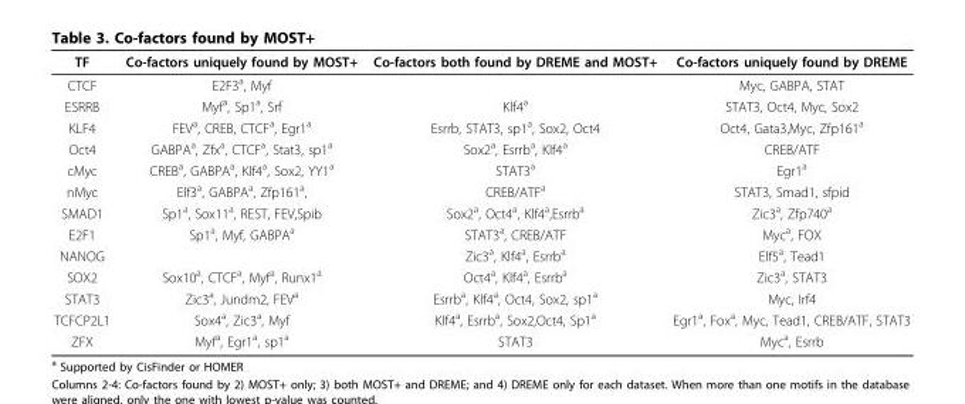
<table><thead><tr><td>TF</td><td>Co-factors uniquely found by MOST+</td><td>Co-factors both found by DREME and MOST+</td><td>Co-factors uniquely found by DREME</td></tr></thead><tbody><tr><td>CTCF</td><td>E2F3<sup>a</sup>, Myf</td><td></td><td>Myc, GABPA, STAT</td></tr><tr><td>ESRRB</td><td>Myf<sup>a</sup>, Sp1<sup>a</sup>, Srf</td><td>Klf4<sup>a</sup></td><td>STAT3, Oct4, Myc, Sox2</td></tr><tr><td>KLF4</td><td>FEV<sup>a</sup>, CREB, CTCF<sup>a</sup>, Egr1<sup>a</sup></td><td>Esrrb, STAT3, sp1<sup>a</sup>, Sox2, Oct4</td><td>Oct4, Gata3,Myc, Zfp161<sup>a</sup></td></tr><tr><td>Oct4</td><td>GABPA<sup>a</sup>, Zfx<sup>a</sup>, CTCF<sup>a</sup>, Stat3, sp1<sup>a</sup></td><td>Sox2<sup>a</sup>, Esrrb<sup>a</sup>, Klf4<sup>a</sup></td><td>CREB/ATF</td></tr><tr><td>cMyc</td><td>CREB<sup>a</sup>, GABPA<sup>a</sup>, Klf4<sup>a</sup>, Sox2, YY1<sup>a</sup></td><td>STAT3<sup>a</sup></td><td>Egr1<sup>a</sup></td></tr><tr><td>nMyc</td><td>Elf3<sup>a</sup>, GABPA<sup>a</sup>, Zfp161<sup>a</sup>,</td><td>CREB/ATF<sup>a</sup></td><td>STAT3, Smad1, sfpid</td></tr><tr><td>SMAD1</td><td>Sp1<sup>a</sup>, Sox11<sup>a</sup>, REST, FEV,Spib</td><td>Sox2<sup>a</sup>, Oct4<sup>a</sup>, Klf4<sup>a</sup>,Esrrb<sup>a</sup></td><td>Zic3<sup>a</sup>, Zfp740<sup>a</sup></td></tr><tr><td>E2F1</td><td>Sp1<sup>a</sup>, Myf, GABPA<sup>a</sup></td><td>STAT3<sup>a</sup>, CREB/ATF</td><td>Myc<sup>a</sup>, FOX</td></tr><tr><td>NANOG</td><td></td><td>Zic3<sup>a</sup>, Klf4<sup>a</sup>, Esrrb<sup>a</sup></td><td>Elf5<sup>a</sup>, Tead1</td></tr><tr><td>SOX2</td><td>Sox10<sup>a</sup>, CTCF<sup>a</sup>, Myf<sup>a</sup>, Runx1<sup>a</sup></td><td>Oct4<sup>a</sup>, Klf4<sup>a</sup>, Esrrb<sup>a</sup></td><td>Zic3<sup>a</sup>, STAT3</td></tr><tr><td>STAT3</td><td>Zic3<sup>a</sup>, Jundm2, FEV<sup>a</sup></td><td>Esrrb<sup>a</sup>, Klf4<sup>a</sup>, Oct4, Sox2, sp1<sup>a</sup></td><td>Myc, Irf4</td></tr><tr><td>TCFCP2L1</td><td>Sox4<sup>a</sup>, Zic3<sup>a</sup>, Myf</td><td>Klf4<sup>a</sup>, Esrrb<sup>a</sup>, Sox2,Oct4, Sp1<sup>a</sup></td><td>Egr1<sup>a</sup>, Fox<sup>a</sup>, Myc, Tead1, CREB/ATF, STAT3</td></tr><tr><td>ZFX</td><td>Myf<sup>a</sup>, Egr1<sup>a</sup>, sp1<sup>a</sup></td><td>STAT3</td><td>Myc<sup>a</sup>, Esrrb</td></tr></tbody></table>